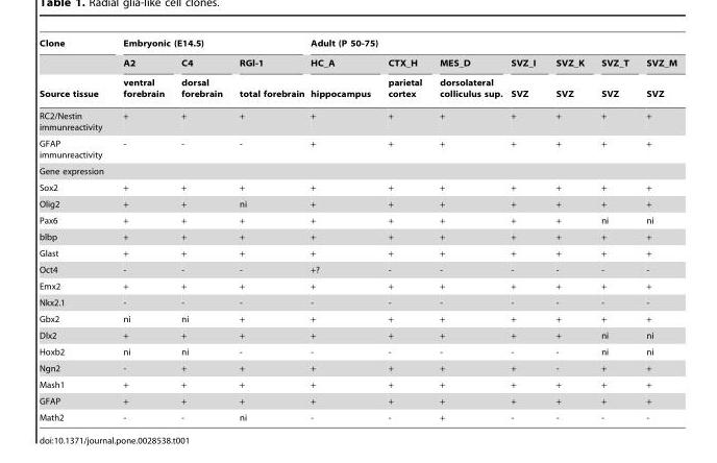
<table><thead><tr><td rowspan="3">Clone Source tissue</td><td colspan="3">Embryonic (E14.5)</td><td colspan="7">Adult (P 50-75)</td></tr><tr><td rowspan="2">A2 ventral forebrain</td><td rowspan="2">C4 dorsal forebrain</td><td rowspan="2">RGl-1 total forebrain</td><td rowspan="2">HC_A hippocampus</td><td rowspan="2">CTX_H parietal cortex</td><td rowspan="2">MES_D dorsolateral colliculus sup.</td><td rowspan="2">SVZ_I SVZ</td><td rowspan="2">SVZ_K SVZ</td><td rowspan="2">SVZ_T SVZ</td><td rowspan="2">SVZ_M SVZ</td></tr><tr></tr></thead><tbody><tr><td>RC2/Nestin immunreactivity</td><td>+</td><td>+</td><td>+</td><td>+</td><td>+</td><td>+</td><td>+</td><td>+</td><td>+</td><td>+</td></tr><tr><td>GFAP immunreactivity</td><td>-</td><td>-</td><td>-</td><td>+</td><td>+</td><td>+</td><td>+</td><td>+</td><td>+</td><td>+</td></tr><tr><td colspan="11">Gene expression</td></tr><tr><td>Sox2</td><td>+</td><td>+</td><td>+</td><td>+</td><td>+</td><td>+</td><td>+</td><td>+</td><td>+</td><td>+</td></tr><tr><td>Olig2</td><td>+</td><td>+</td><td>ni</td><td>+</td><td>+</td><td>+</td><td>+</td><td>+</td><td>+</td><td>+</td></tr><tr><td>Pax6</td><td>+</td><td>+</td><td>+</td><td>+</td><td>+</td><td>+</td><td>+</td><td>+</td><td>ni</td><td>ni</td></tr><tr><td>blbp</td><td>+</td><td>+</td><td>+</td><td>+</td><td>+</td><td>+</td><td>+</td><td>+</td><td>+</td><td>+</td></tr><tr><td>Glast</td><td>+</td><td>+</td><td>+</td><td>+</td><td>+</td><td>+</td><td>+</td><td>+</td><td>+</td><td>+</td></tr><tr><td>Oct4</td><td>-</td><td>-</td><td>-</td><td>+?</td><td>-</td><td>-</td><td>-</td><td>-</td><td>-</td><td>-</td></tr><tr><td>Emx2</td><td>+</td><td>+</td><td>+</td><td>+</td><td>+</td><td>+</td><td>+</td><td>+</td><td>+</td><td>+</td></tr><tr><td>Nkx2.1</td><td>-</td><td>-</td><td>-</td><td>-</td><td>-</td><td>-</td><td>-</td><td>-</td><td>-</td><td>-</td></tr><tr><td>Gbx2</td><td>ni</td><td>ni</td><td>+</td><td>+</td><td>+</td><td>+</td><td>+</td><td>+</td><td>+</td><td>+</td></tr><tr><td>Dlx2</td><td>+</td><td>+</td><td>+</td><td>+</td><td>+</td><td>+</td><td>+</td><td>+</td><td>ni</td><td>ni</td></tr><tr><td>Hoxb2</td><td>ni</td><td>ni</td><td>-</td><td>-</td><td>-</td><td>-</td><td>-</td><td>-</td><td>ni</td><td>ni</td></tr><tr><td>Ngn2</td><td>-</td><td>+</td><td>+</td><td>+</td><td>+</td><td>+</td><td>+</td><td>-</td><td>+</td><td>+</td></tr><tr><td>Mash1</td><td>+</td><td>+</td><td>+</td><td>+</td><td>+</td><td>+</td><td>+</td><td>+</td><td>+</td><td>+</td></tr><tr><td>GFAP</td><td>+</td><td>+</td><td>+</td><td>+</td><td>+</td><td>+</td><td>+</td><td>+</td><td>+</td><td>+</td></tr><tr><td>Math2</td><td>-</td><td>-</td><td>ni</td><td>-</td><td>-</td><td>+</td><td>-</td><td>-</td><td>-</td><td>-</td></tr></tbody></table>